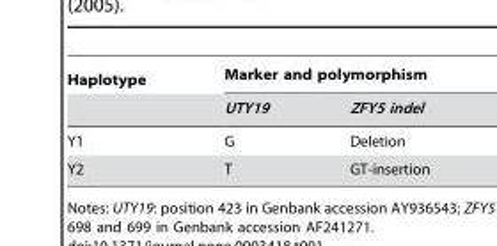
<table><thead><tr><td rowspan="2">Haplotype</td><td colspan="2">Marker and polymorphism</td></tr><tr><td>UTY19</td><td>ZFY5 indel</td></tr></thead><tbody><tr><td>Y1</td><td>G</td><td>Deletion</td></tr><tr><td>Y2</td><td>T</td><td>GT-insertion</td></tr></tbody></table>